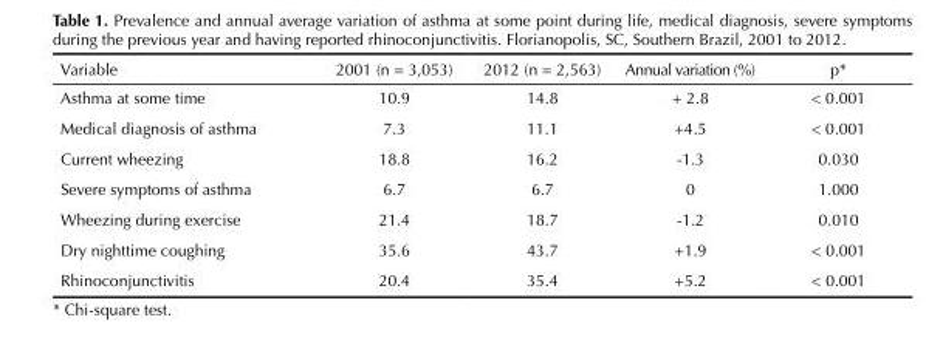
<table><thead><tr><td>Variable</td><td>2001 (n = 3,053)</td><td>2012 (n = 2,563)</td><td>Annual variation (%)</td><td>p*</td></tr></thead><tbody><tr><td>Asthma at some time</td><td>10.9</td><td>14.8</td><td>+ 2.8</td><td>&lt; 0.001</td></tr><tr><td>Medical diagnosis of asthma</td><td>7.3</td><td>11.1</td><td>+4.5</td><td>&lt; 0.001</td></tr><tr><td>Current wheezing</td><td>18.8</td><td>16.2</td><td>-1.3</td><td>0.030</td></tr><tr><td>Severe symptoms of asthma</td><td>6.7</td><td>6.7</td><td>0</td><td>1.000</td></tr><tr><td>Wheezing during exercise</td><td>21.4</td><td>18.7</td><td>-1.2</td><td>0.010</td></tr><tr><td>Dry nighttime coughing</td><td>35.6</td><td>43.7</td><td>+1.9</td><td>&lt; 0.001</td></tr><tr><td>Rhinoconjunctivitis</td><td>20.4</td><td>35.4</td><td>+5.2</td><td>&lt; 0.001</td></tr></tbody></table>